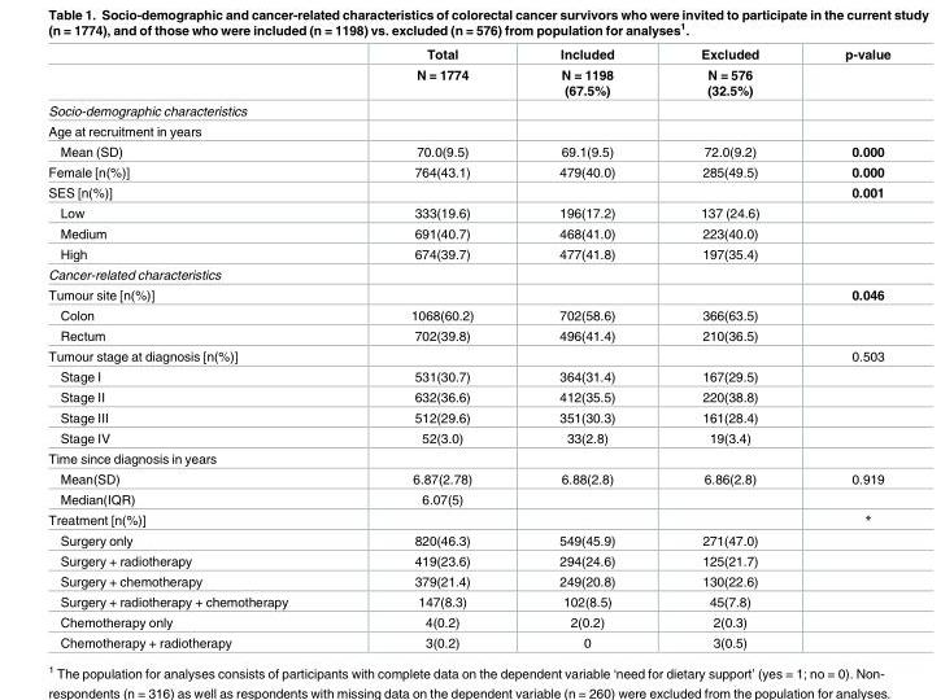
<table><thead><tr><td rowspan="2"></td><td rowspan="2">Total N = 1774</td><td rowspan="2">Included N = 1198 (67.5%)</td><td rowspan="2">Excluded N = 576 (32.5%)</td><td rowspan="2">p-value</td></tr><tr></tr></thead><tbody><tr><td colspan="5">Socio-demographic characteristics</td></tr><tr><td colspan="5">Age at recruitment in years</td></tr><tr><td>Mean (SD)</td><td>70.0(9.5)</td><td>69.1(9.5)</td><td>72.0(9.2)</td><td>0.000</td></tr><tr><td>Female [n(%)]</td><td>764(43.1)</td><td>479(40.0)</td><td>285(49.5)</td><td>0.000</td></tr><tr><td>SES [n(%)]</td><td></td><td></td><td></td><td>0.001</td></tr><tr><td>Low</td><td>333(19.6)</td><td>196(17.2)</td><td>137 (24.6)</td><td></td></tr><tr><td>Medium</td><td>691(40.7)</td><td>468(41.0)</td><td>223(40.0)</td><td></td></tr><tr><td>High</td><td>674(39.7)</td><td>477(41.8)</td><td>197(35.4)</td><td></td></tr><tr><td colspan="5">Cancer-related characteristics</td></tr><tr><td>Tumour site [n(%)]</td><td></td><td></td><td></td><td>0.046</td></tr><tr><td>Colon</td><td>1068(60.2)</td><td>702(58.6)</td><td>366(63.5)</td><td></td></tr><tr><td>Rectum</td><td>702(39.8)</td><td>496(41.4)</td><td>210(36.5)</td><td></td></tr><tr><td>Tumour stage at diagnosis [n(%)]</td><td></td><td></td><td></td><td>0.503</td></tr><tr><td>Stage I</td><td>531(30.7)</td><td>364(31.4)</td><td>167(29.5)</td><td></td></tr><tr><td>Stage II</td><td>632(36.6)</td><td>412(35.5)</td><td>220(38.8)</td><td></td></tr><tr><td>Stage III</td><td>512(29.6)</td><td>351(30.3)</td><td>161(28.4)</td><td></td></tr><tr><td>Stage IV</td><td>52(3.0)</td><td>33(2.8)</td><td>19(3.4)</td><td></td></tr><tr><td colspan="5">Time since diagnosis in years</td></tr><tr><td>Mean(SD)</td><td>6.87(2.78)</td><td>6.88(2.8)</td><td>6.86(2.8)</td><td>0.919</td></tr><tr><td>Median(IQR)</td><td>6.07(5)</td><td></td><td></td><td></td></tr><tr><td>Treatment [n(%)]</td><td></td><td></td><td></td><td>*</td></tr><tr><td>Surgery only</td><td>820(46.3)</td><td>549(45.9)</td><td>271(47.0)</td><td></td></tr><tr><td>Surgery + radiotherapy</td><td>419(23.6)</td><td>294(24.6)</td><td>125(21.7)</td><td></td></tr><tr><td>Surgery + chemotherapy</td><td>379(21.4)</td><td>249(20.8)</td><td>130(22.6)</td><td></td></tr><tr><td>Surgery + radiotherapy + chemotherapy</td><td>147(8.3)</td><td>102(8.5)</td><td>45(7.8)</td><td></td></tr><tr><td>Chemotherapy only</td><td>4(0.2)</td><td>2(0.2)</td><td>2(0.3)</td><td></td></tr><tr><td>Chemotherapy + radiotherapy</td><td>3(0.2)</td><td>0</td><td>3(0.5)</td><td></td></tr></tbody></table>